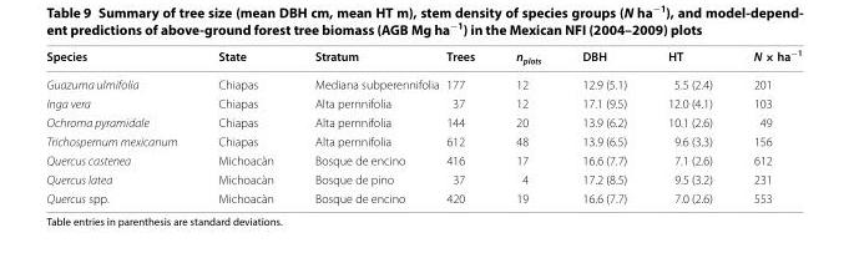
<table><thead><tr><td>Species</td><td>State</td><td>Stratum</td><td>Trees</td><td>n<sub>plots</sub></td><td>DBH</td><td>HT</td><td>N × ha<sup>−1</sup></td></tr></thead><tbody><tr><td>Guazuma ulmifolia</td><td>Chiapas</td><td>Mediana subperennifolia</td><td>177</td><td>12</td><td>12.9 (5.1)</td><td>5.5 (2.4)</td><td>201</td></tr><tr><td>Inga vera</td><td>Chiapas</td><td>Alta pernnifolia</td><td>37</td><td>12</td><td>17.1 (9.5)</td><td>12.0 (4.1)</td><td>103</td></tr><tr><td>Ochroma pyramidale</td><td>Chiapas</td><td>Alta pernnifolia</td><td>144</td><td>20</td><td>13.9 (6.2)</td><td>10.1 (2.6)</td><td>49</td></tr><tr><td>Trichospernum mexicanum</td><td>Chiapas</td><td>Alta pernnifolia</td><td>612</td><td>48</td><td>13.9 (6.5)</td><td>9.6 (3.3)</td><td>156</td></tr><tr><td>Quercus castenea</td><td>Michoacàn</td><td>Bosque de encino</td><td>416</td><td>17</td><td>16.6 (7.7)</td><td>7.1 (2.6)</td><td>612</td></tr><tr><td>Quercus latea</td><td>Michoacàn</td><td>Bosque de pino</td><td>37</td><td>4</td><td>17.2 (8.5)</td><td>9.5 (3.2)</td><td>231</td></tr><tr><td>Quercus spp.</td><td>Michoacàn</td><td>Bosque de encino</td><td>420</td><td>19</td><td>16.6 (7.7)</td><td>7.0 (2.6)</td><td>553</td></tr></tbody></table>